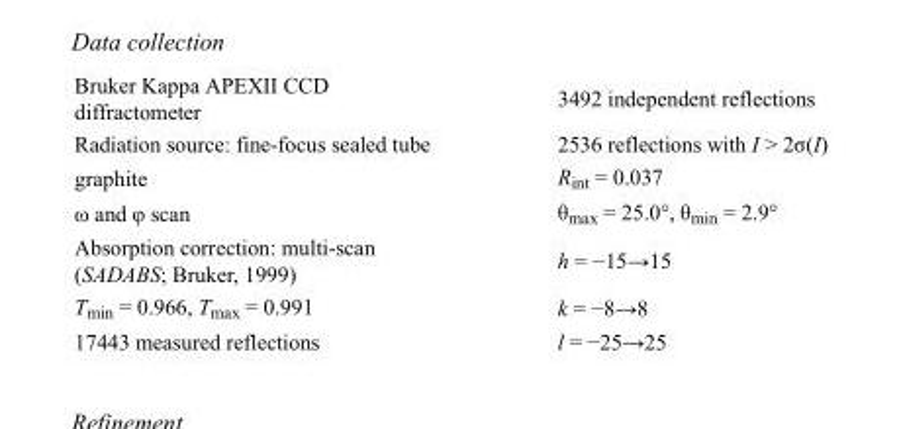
<table><tbody><tr><td>Bruker Kappa APEXII CCD diffractometer</td><td>3492 independent reflections</td></tr><tr><td>Radiation source: fine-focus sealed tube</td><td>2536 reflections with I &gt; 2σ(I)</td></tr><tr><td>graphite</td><td>R<sub>int</sub> = 0.037</td></tr><tr><td>ω and φ scan</td><td>θ<sub>max</sub> = 25.0°, θ<sub>min</sub> = 2.9°</td></tr><tr><td>Absorption correction: multi-scan (SADABS; Bruker, 1999)</td><td>h = −15→15</td></tr><tr><td>T<sub>min</sub> = 0.966, T<sub>max</sub> = 0.991</td><td>k = −8→8</td></tr><tr><td>17443 measured reflections</td><td>l = −25→25</td></tr></tbody></table>